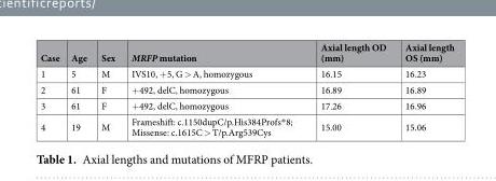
<table><thead><tr><td>Case</td><td>Age</td><td>Sex</td><td>MRFP mutation</td><td>Axial length OD (mm)</td><td>Axial length OS (mm)</td></tr></thead><tbody><tr><td>1</td><td>5</td><td>M</td><td>IVS10, +5, G &gt; A, homozygous</td><td>16.15</td><td>16.23</td></tr><tr><td>2</td><td>61</td><td>F</td><td>+492, delC, homozygous</td><td>16.89</td><td>16.89</td></tr><tr><td>3</td><td>61</td><td>F</td><td>+492, delC, homozygous</td><td>17.26</td><td>16.96</td></tr><tr><td>4</td><td>19</td><td>M</td><td>Frameshift: c.1150dupC/p.His384Profs*8; Missense: c.1615C &gt; T/p.Arg539Cys</td><td>15.00</td><td>15.06</td></tr></tbody></table>